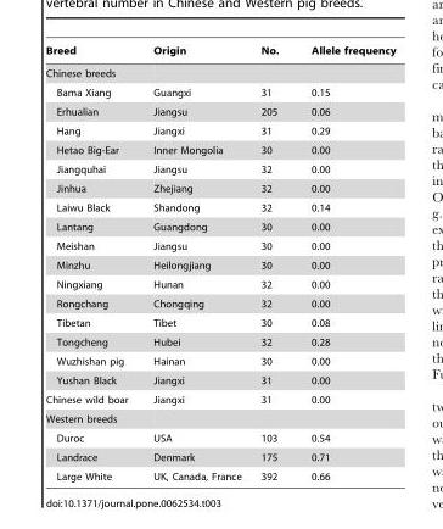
<table><thead><tr><td>Breed</td><td>Origin</td><td>No.</td><td>Allele frequency</td></tr></thead><tbody><tr><td colspan="4">Chinese breeds</td></tr><tr><td>Bama Xiang</td><td>Guangxi</td><td>31</td><td>0.15</td></tr><tr><td>Erhualian</td><td>Jiangsu</td><td>205</td><td>0.06</td></tr><tr><td>Hang</td><td>Jiangxi</td><td>31</td><td>0.29</td></tr><tr><td>Hetao Big-Ear</td><td>Inner Mongolia</td><td>30</td><td>0.00</td></tr><tr><td>Jiangquhai</td><td>Jiangsu</td><td>32</td><td>0.00</td></tr><tr><td>Jinhua</td><td>Zhejiang</td><td>32</td><td>0.00</td></tr><tr><td>Laiwu Black</td><td>Shandong</td><td>32</td><td>0.14</td></tr><tr><td>Lantang</td><td>Guangdong</td><td>30</td><td>0.00</td></tr><tr><td>Meishan</td><td>Jiangsu</td><td>30</td><td>0.00</td></tr><tr><td>Minzhu</td><td>Heilongjiang</td><td>30</td><td>0.00</td></tr><tr><td>Ningxiang</td><td>Hunan</td><td>32</td><td>0.00</td></tr><tr><td>Rongchang</td><td>Chongqing</td><td>32</td><td>0.00</td></tr><tr><td>Tibetan</td><td>Tibet</td><td>30</td><td>0.08</td></tr><tr><td>Tongcheng</td><td>Hubei</td><td>32</td><td>0.28</td></tr><tr><td>Wuzhishan pig</td><td>Hainan</td><td>30</td><td>0.00</td></tr><tr><td>Yushan Black</td><td>Jiangxi</td><td>31</td><td>0.00</td></tr><tr><td>Chinese wild boar</td><td>Jiangxi</td><td>31</td><td>0.00</td></tr><tr><td colspan="4">Western breeds</td></tr><tr><td>Duroc</td><td>USA</td><td>103</td><td>0.54</td></tr><tr><td>Landrace</td><td>Denmark</td><td>175</td><td>0.71</td></tr><tr><td>Large White</td><td>UK, Canada, France</td><td>392</td><td>0.66</td></tr></tbody></table>